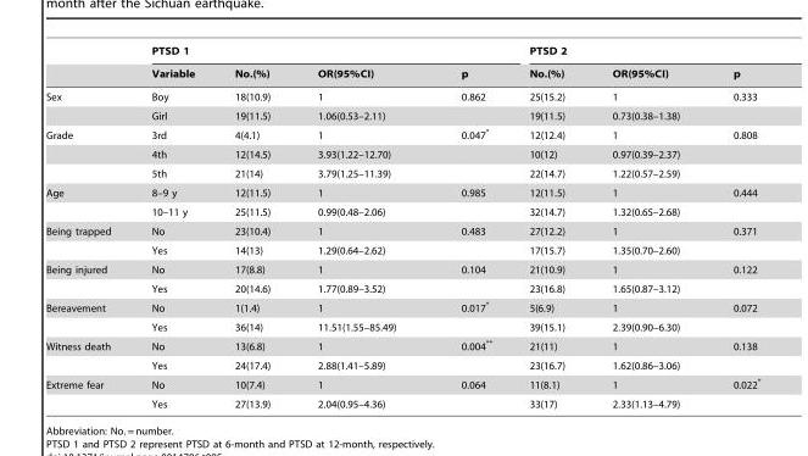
<table><thead><tr><td rowspan="2"></td><td colspan="4">PTSD 1</td><td colspan="3">PTSD 2</td></tr><tr><td>Variable</td><td>No.(%)</td><td>OR(95%CI)</td><td>p</td><td>No.(%)</td><td>OR(95%CI)</td><td>p</td></tr></thead><tbody><tr><td rowspan="2">Sex</td><td>Boy</td><td>18(10.9)</td><td>1</td><td>0.862</td><td>25(15.2)</td><td>1</td><td>0.333</td></tr><tr><td>Girl</td><td>19(11.5)</td><td>1.06(0.53–2.11)</td><td></td><td>19(11.5)</td><td>0.73(0.38–1.38)</td><td></td></tr><tr><td rowspan="3">Grade</td><td>3rd</td><td>4(4.1)</td><td>1</td><td>0.047*</td><td>12(12.4)</td><td>1</td><td>0.808</td></tr><tr><td>4th</td><td>12(14.5)</td><td>3.93(1.22–12.70)</td><td></td><td>10(12)</td><td>0.97(0.39–2.37)</td><td></td></tr><tr><td>5th</td><td>21(14)</td><td>3.79(1.25–11.39)</td><td></td><td>22(14.7)</td><td>1.22(0.57–2.59)</td><td></td></tr><tr><td rowspan="2">Age</td><td>8–9 y</td><td>12(11.5)</td><td>1</td><td>0.985</td><td>12(11.5)</td><td>1</td><td>0.444</td></tr><tr><td>10–11 y</td><td>25(11.5)</td><td>0.99(0.48–2.06)</td><td></td><td>32(14.7)</td><td>1.32(0.65–2.68)</td><td></td></tr><tr><td rowspan="2">Being trapped</td><td>No</td><td>23(10.4)</td><td>1</td><td>0.483</td><td>27(12.2)</td><td>1</td><td>0.371</td></tr><tr><td>Yes</td><td>14(13)</td><td>1.29(0.64–2.62)</td><td></td><td>17(15.7)</td><td>1.35(0.70–2.60)</td><td></td></tr><tr><td rowspan="2">Being injured</td><td>No</td><td>17(8.8)</td><td>1</td><td>0.104</td><td>21(10.9)</td><td>1</td><td>0.122</td></tr><tr><td>Yes</td><td>20(14.6)</td><td>1.77(0.89–3.52)</td><td></td><td>23(16.8)</td><td>1.65(0.87–3.12)</td><td></td></tr><tr><td rowspan="2">Bereavement</td><td>No</td><td>1(1.4)</td><td>1</td><td>0.017*</td><td>5(6.9)</td><td>1</td><td>0.072</td></tr><tr><td>Yes</td><td>36(14)</td><td>11.51(1.55–85.49)</td><td></td><td>39(15.1)</td><td>2.39(0.90–6.30)</td><td></td></tr><tr><td rowspan="2">Witness death</td><td>No</td><td>13(6.8)</td><td>1</td><td>0.004**</td><td>21(11)</td><td>1</td><td>0.138</td></tr><tr><td>Yes</td><td>24(17.4)</td><td>2.88(1.41–5.89)</td><td></td><td>23(16.7)</td><td>1.62(0.86–3.06)</td><td></td></tr><tr><td rowspan="2">Extreme fear</td><td>No</td><td>10(7.4)</td><td>1</td><td>0.064</td><td>11(8.1)</td><td>1</td><td>0.022*</td></tr><tr><td>Yes</td><td>27(13.9)</td><td>2.04(0.95–4.36)</td><td></td><td>33(17)</td><td>2.33(1.13–4.79)</td><td></td></tr></tbody></table>